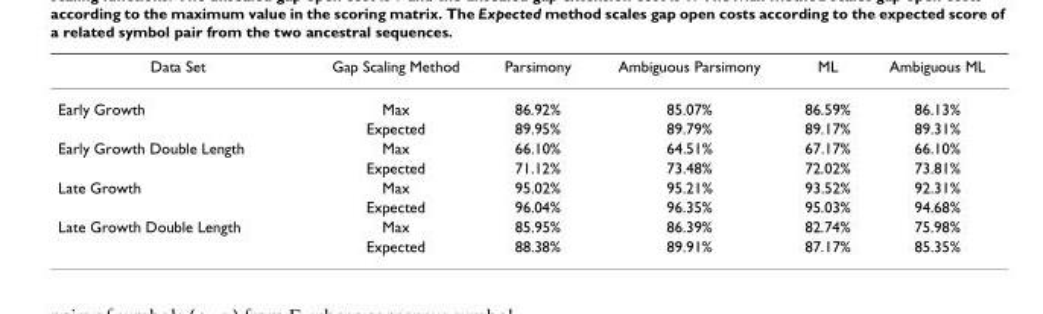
<table><thead><tr><td>Data Set</td><td>Gap Scaling Method</td><td>Parsimony</td><td>Ambiguous Parsimony</td><td>ML</td><td>Ambiguous ML</td></tr></thead><tbody><tr><td rowspan="2">Early Growth</td><td>Max</td><td>86.92%</td><td>85.07%</td><td>86.59%</td><td>86.13%</td></tr><tr><td>Expected</td><td>89.95%</td><td>89.79%</td><td>89.17%</td><td>89.31%</td></tr><tr><td rowspan="2">Early Growth Double Length</td><td>Max</td><td>66.10%</td><td>64.51%</td><td>67.17%</td><td>66.10%</td></tr><tr><td>Expected</td><td>71.12%</td><td>73.48%</td><td>72.02%</td><td>73.81%</td></tr><tr><td rowspan="2">Late Growth</td><td>Max</td><td>95.02%</td><td>95.21%</td><td>93.52%</td><td>92.31%</td></tr><tr><td>Expected</td><td>96.04%</td><td>96.35%</td><td>95.03%</td><td>94.68%</td></tr><tr><td rowspan="2">Late Growth Double Length</td><td>Max</td><td>85.95%</td><td>86.39%</td><td>82.74%</td><td>75.98%</td></tr><tr><td>Expected</td><td>88.38%</td><td>89.91%</td><td>87.17%</td><td>85.35%</td></tr></tbody></table>